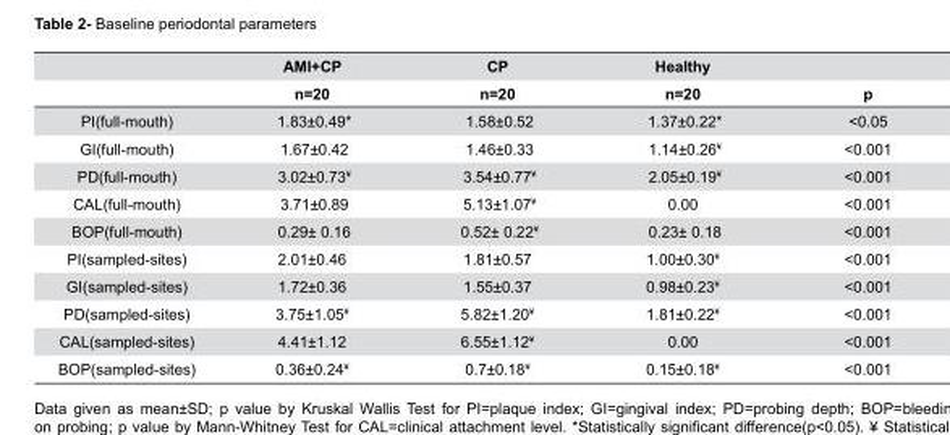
<table><thead><tr><td rowspan="2"></td><td rowspan="2">AMI+CP n=20</td><td rowspan="2">CP n=20</td><td rowspan="2">Healthy n=20</td><td rowspan="2">p</td></tr><tr></tr></thead><tbody><tr><td>PI(full-mouth)</td><td>1.83±0.49*</td><td>1.58±0.52</td><td>1.37±0.22*</td><td>&lt;0.05</td></tr><tr><td>GI(full-mouth)</td><td>1.67±0.42</td><td>1.46±0.33</td><td>1.14±0.26¥</td><td>&lt;0.001</td></tr><tr><td>PD(full-mouth)</td><td>3.02±0.73¥</td><td>3.54±0.77¥</td><td>2.05±0.19¥</td><td>&lt;0.001</td></tr><tr><td>CAL(full-mouth)</td><td>3.71±0.89</td><td>5.13±1.07¥</td><td>0.00</td><td>&lt;0.001</td></tr><tr><td>BOP(full-mouth)</td><td>0.29± 0.16</td><td>0.52± 0.22¥</td><td>0.23± 0.18</td><td>&lt;0.001</td></tr><tr><td>PI(sampled-sites)</td><td>2.01±0.46</td><td>1.81±0.57</td><td>1.00±0.30¥</td><td>&lt;0.001</td></tr><tr><td>GI(sampled-sites)</td><td>1.72±0.36</td><td>1.55±0.37</td><td>0.98±0.23¥</td><td>&lt;0.001</td></tr><tr><td>PD(sampled-sites)</td><td>3.75±1.05¥</td><td>5.82±1.20¥</td><td>1.81±0.22¥</td><td>&lt;0.001</td></tr><tr><td>CAL(sampled-sites)</td><td>4.41±1.12</td><td>6.55±1.12¥</td><td>0.00</td><td>&lt;0.001</td></tr><tr><td>BOP(sampled-sites)</td><td>0.36±0.24¥</td><td>0.7±0.18¥</td><td>0.15±0.18¥</td><td>&lt;0.001</td></tr></tbody></table>